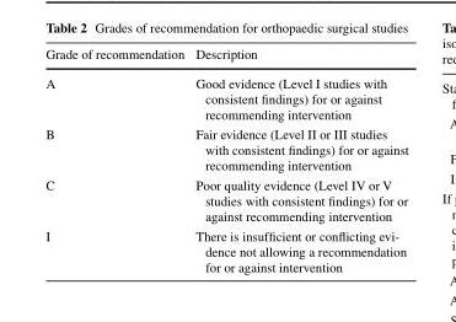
<table><thead><tr><td>Grade of recommendation</td><td>Description</td></tr></thead><tbody><tr><td>A</td><td>Good evidence (Level I studies with consistent findings) for or against recommending intervention</td></tr><tr><td>B</td><td>Fair evidence (Level II or III studies with consistent findings) for or against recommending intervention</td></tr><tr><td>C</td><td>Poor quality evidence (Level IV or V studies with consistent findings) for or against recommending intervention</td></tr><tr><td>I</td><td>There is insufficient or conflicting evi- dence not allowing a recommendation for or against intervention</td></tr></tbody></table>